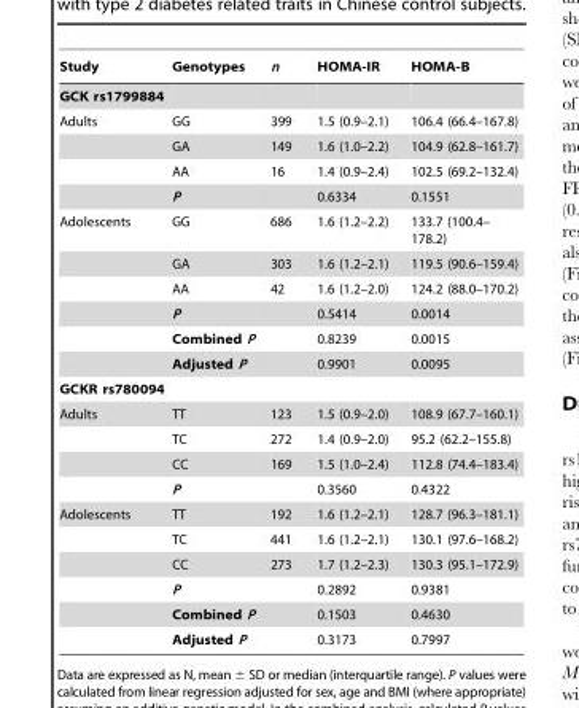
<table><thead><tr><td>Study</td><td>Genotypes</td><td>n</td><td>HOMA-IR</td><td>HOMA-B</td></tr></thead><tbody><tr><td colspan="5">GCK rs1799884</td></tr><tr><td rowspan="4">Adults</td><td>GG</td><td>399</td><td>1.5 (0.9–2.1)</td><td>106.4 (66.4–167.8)</td></tr><tr><td>GA</td><td>149</td><td>1.6 (1.0–2.2)</td><td>104.9 (62.8–161.7)</td></tr><tr><td>AA</td><td>16</td><td>1.4 (0.9–2.4)</td><td>102.5 (69.2–132.4)</td></tr><tr><td>P</td><td></td><td>0.6334</td><td>0.1551</td></tr><tr><td rowspan="6">Adolescents</td><td>GG</td><td>686</td><td>1.6 (1.2–2.2)</td><td>133.7 (100.4– 178.2)</td></tr><tr><td>GA</td><td>303</td><td>1.6 (1.2–2.1)</td><td>119.5 (90.6–159.4)</td></tr><tr><td>AA</td><td>42</td><td>1.6 (1.2–2.0)</td><td>124.2 (88.0–170.2)</td></tr><tr><td>P</td><td></td><td>0.5414</td><td>0.0014</td></tr><tr><td>Combined P</td><td></td><td>0.8239</td><td>0.0015</td></tr><tr><td>Adjusted P</td><td></td><td>0.9901</td><td>0.0095</td></tr><tr><td colspan="5">GCKR rs780094</td></tr><tr><td rowspan="4">Adults</td><td>TT</td><td>123</td><td>1.5 (0.9–2.0)</td><td>108.9 (67.7–160.1)</td></tr><tr><td>TC</td><td>272</td><td>1.4 (0.9–2.0)</td><td>95.2 (62.2–155.8)</td></tr><tr><td>CC</td><td>169</td><td>1.5 (1.0–2.4)</td><td>112.8 (74.4–183.4)</td></tr><tr><td>P</td><td></td><td>0.3560</td><td>0.4322</td></tr><tr><td rowspan="6">Adolescents</td><td>TT</td><td>192</td><td>1.6 (1.2–2.1)</td><td>128.7 (96.3–181.1)</td></tr><tr><td>TC</td><td>441</td><td>1.6 (1.2–2.1)</td><td>130.1 (97.6–168.2)</td></tr><tr><td>CC</td><td>273</td><td>1.7 (1.2–2.3)</td><td>130.3 (95.1–172.9)</td></tr><tr><td>P</td><td></td><td>0.2892</td><td>0.9381</td></tr><tr><td>Combined P</td><td></td><td>0.1503</td><td>0.4630</td></tr><tr><td>Adjusted P</td><td></td><td>0.3173</td><td>0.7997</td></tr></tbody></table>